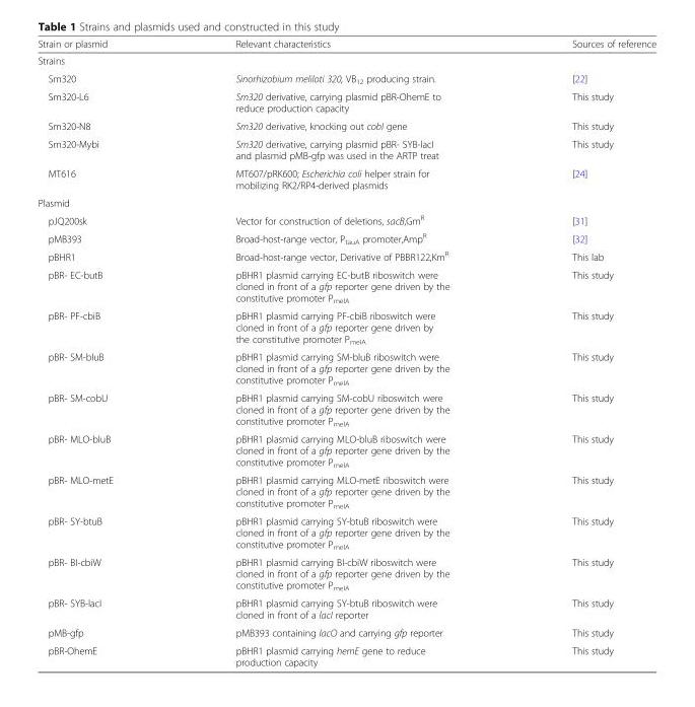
<table><thead><tr><td>Strain or plasmid</td><td>Relevant characteristics</td><td>Sources of reference</td></tr></thead><tbody><tr><td colspan="3">Strains</td></tr><tr><td>Sm320</td><td>Sinorhizobium meliloti 320, VB<sub>12</sub> producing strain.</td><td>[22]</td></tr><tr><td>Sm320-L6</td><td>Sm320 derivative, carrying plasmid pBR-OhemE to reduce production capacity</td><td>This study</td></tr><tr><td>Sm320-N8</td><td>Sm320 derivative, knocking out cobI gene</td><td>This study</td></tr><tr><td>Sm320-Mybi</td><td>Sm320 derivative, carrying plasmid pBR- SYB-lacI and plasmid pMB-gfp was used in the ARTP treat</td><td>This study</td></tr><tr><td>MT616</td><td>MT607/pRK600; Escherichia coli helper strain for mobilizing RK2/RP4-derived plasmids</td><td>[24]</td></tr><tr><td colspan="3">Plasmid</td></tr><tr><td>pJQ200sk</td><td>Vector for construction of deletions, sacB,Gm<sup>R</sup></td><td>[31]</td></tr><tr><td>pMB393</td><td>Broad-host-range vector, P<sub>tauA</sub> promoter,Amp<sup>R</sup></td><td>[32]</td></tr><tr><td>pBHR1</td><td>Broad-host-range vector, Derivative of PBBR122,Km<sup>R</sup></td><td>This lab</td></tr><tr><td>pBR- EC-butB</td><td>pBHR1 plasmid carrying EC-butB riboswitch were cloned in front of a gfp reporter gene driven by the constitutive promoter P<sub>melA</sub></td><td>This study</td></tr><tr><td>pBR- PF-cbiB</td><td>pBHR1 plasmid carrying PF-cbiB riboswitch were cloned in front of a gfp reporter gene driven by the constitutive promoter P<sub>melA</sub></td><td>This study</td></tr><tr><td>pBR- SM-bluB</td><td>pBHR1 plasmid carrying SM-bluB riboswitch were cloned in front of a gfp reporter gene driven by the constitutive promoter P<sub>melA</sub></td><td>This study</td></tr><tr><td>pBR- SM-cobU</td><td>pBHR1 plasmid carrying SM-cobU riboswitch were cloned in front of a gfp reporter gene driven by the constitutive promoter P<sub>melA</sub></td><td>This study</td></tr><tr><td>pBR- MLO-bluB</td><td>pBHR1 plasmid carrying MLO-bluB riboswitch were cloned in front of a gfp reporter gene driven by the constitutive promoter P<sub>melA</sub></td><td>This study</td></tr><tr><td>pBR- MLO-metE</td><td>pBHR1 plasmid carrying MLO-metE riboswitch were cloned in front of a gfp reporter gene driven by the constitutive promoter P<sub>melA</sub></td><td>This study</td></tr><tr><td>pBR- SY-btuB</td><td>pBHR1 plasmid carrying SY-btuB riboswitch were cloned in front of a gfp reporter gene driven by the constitutive promoter P<sub>melA</sub></td><td>This study</td></tr><tr><td>pBR- BI-cbiW</td><td>pBHR1 plasmid carrying BI-cbiW riboswitch were cloned in front of a gfp reporter gene driven by the constitutive promoter P<sub>melA</sub></td><td>This study</td></tr><tr><td>pBR- SYB-lacI</td><td>pBHR1 plasmid carrying SY-btuB riboswitch were cloned in front of a lacI reporter</td><td>This study</td></tr><tr><td>pMB-gfp</td><td>pMB393 containing lacO and carrying gfp reporter</td><td>This study</td></tr><tr><td>pBR-OhemE</td><td>pBHR1 plasmid carrying hemE gene to reduce production capacity</td><td>This study</td></tr></tbody></table>